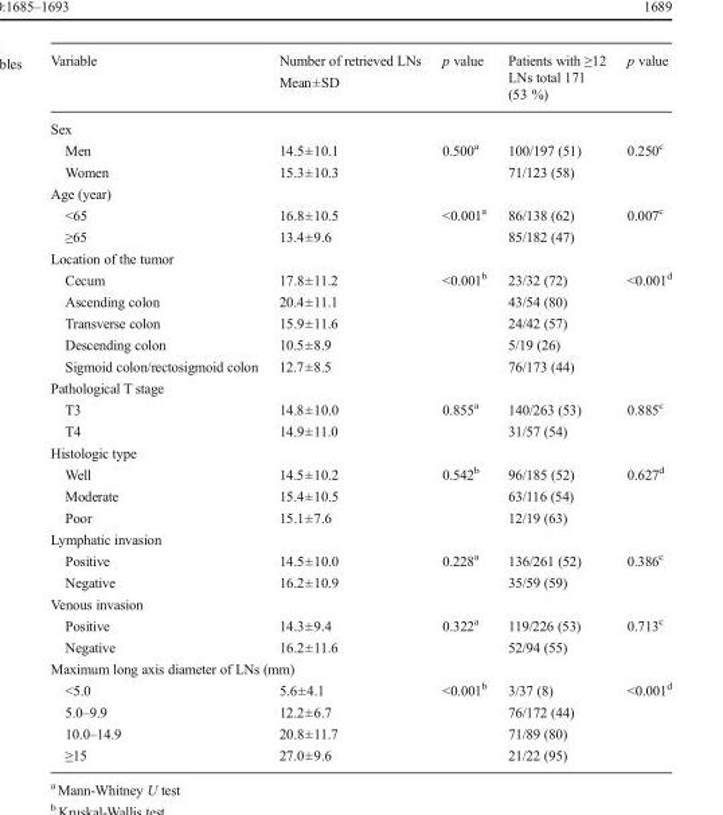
<table><thead><tr><td>Variable</td><td>Number of retrieved LNs Mean±SD</td><td>p value</td><td>Patients with ≥12 LNs total 171 (53 %)</td><td>p value</td></tr></thead><tbody><tr><td colspan="5">Sex</td></tr><tr><td>Men</td><td>14.5±10.1</td><td>0.500<sup>a</sup></td><td>100/197 (51)</td><td>0.250<sup>c</sup></td></tr><tr><td>Women</td><td>15.3±10.3</td><td></td><td>71/123 (58)</td><td></td></tr><tr><td colspan="5">Age (year)</td></tr><tr><td>&lt;65</td><td>16.8±10.5</td><td>&lt;0.001<sup>a</sup></td><td>86/138 (62)</td><td>0.007<sup>c</sup></td></tr><tr><td>≥65</td><td>13.4±9.6</td><td></td><td>85/182 (47)</td><td></td></tr><tr><td colspan="5">Location of the tumor</td></tr><tr><td>Cecum</td><td>17.8±11.2</td><td>&lt;0.001<sup>b</sup></td><td>23/32 (72)</td><td>&lt;0.001<sup>d</sup></td></tr><tr><td>Ascending colon</td><td>20.4±11.1</td><td></td><td>43/54 (80)</td><td></td></tr><tr><td>Transverse colon</td><td>15.9±11.6</td><td></td><td>24/42 (57)</td><td></td></tr><tr><td>Descending colon</td><td>10.5±8.9</td><td></td><td>5/19 (26)</td><td></td></tr><tr><td>Sigmoid colon/rectosigmoid colon</td><td>12.7±8.5</td><td></td><td>76/173 (44)</td><td></td></tr><tr><td colspan="5">Pathological T stage</td></tr><tr><td>T3</td><td>14.8±10.0</td><td>0.855<sup>a</sup></td><td>140/263 (53)</td><td>0.885<sup>c</sup></td></tr><tr><td>T4</td><td>14.9±11.0</td><td></td><td>31/57 (54)</td><td></td></tr><tr><td colspan="5">Histologic type</td></tr><tr><td>Well</td><td>14.5±10.2</td><td>0.542<sup>b</sup></td><td>96/185 (52)</td><td>0.627<sup>d</sup></td></tr><tr><td>Moderate</td><td>15.4±10.5</td><td></td><td>63/116 (54)</td><td></td></tr><tr><td>Poor</td><td>15.1±7.6</td><td></td><td>12/19 (63)</td><td></td></tr><tr><td colspan="5">Lymphatic invasion</td></tr><tr><td>Positive</td><td>14.5±10.0</td><td>0.228<sup>a</sup></td><td>136/261 (52)</td><td>0.386<sup>c</sup></td></tr><tr><td>Negative</td><td>16.2±10.9</td><td></td><td>35/59 (59)</td><td></td></tr><tr><td colspan="5">Venous invasion</td></tr><tr><td>Positive</td><td>14.3±9.4</td><td>0.322<sup>a</sup></td><td>119/226 (53)</td><td>0.713<sup>c</sup></td></tr><tr><td>Negative</td><td>16.2±11.6</td><td></td><td>52/94 (55)</td><td></td></tr><tr><td colspan="5">Maximum long axis diameter of LNs (mm)</td></tr><tr><td>&lt;5.0</td><td>5.6±4.1</td><td>&lt;0.001<sup>b</sup></td><td>3/37 (8)</td><td>&lt;0.001<sup>d</sup></td></tr><tr><td>5.0–9.9</td><td>12.2±6.7</td><td></td><td>76/172 (44)</td><td></td></tr><tr><td>10.0–14.9</td><td>20.8±11.7</td><td></td><td>71/89 (80)</td><td></td></tr><tr><td>≥15</td><td>27.0±9.6</td><td></td><td>21/22 (95)</td><td></td></tr></tbody></table>